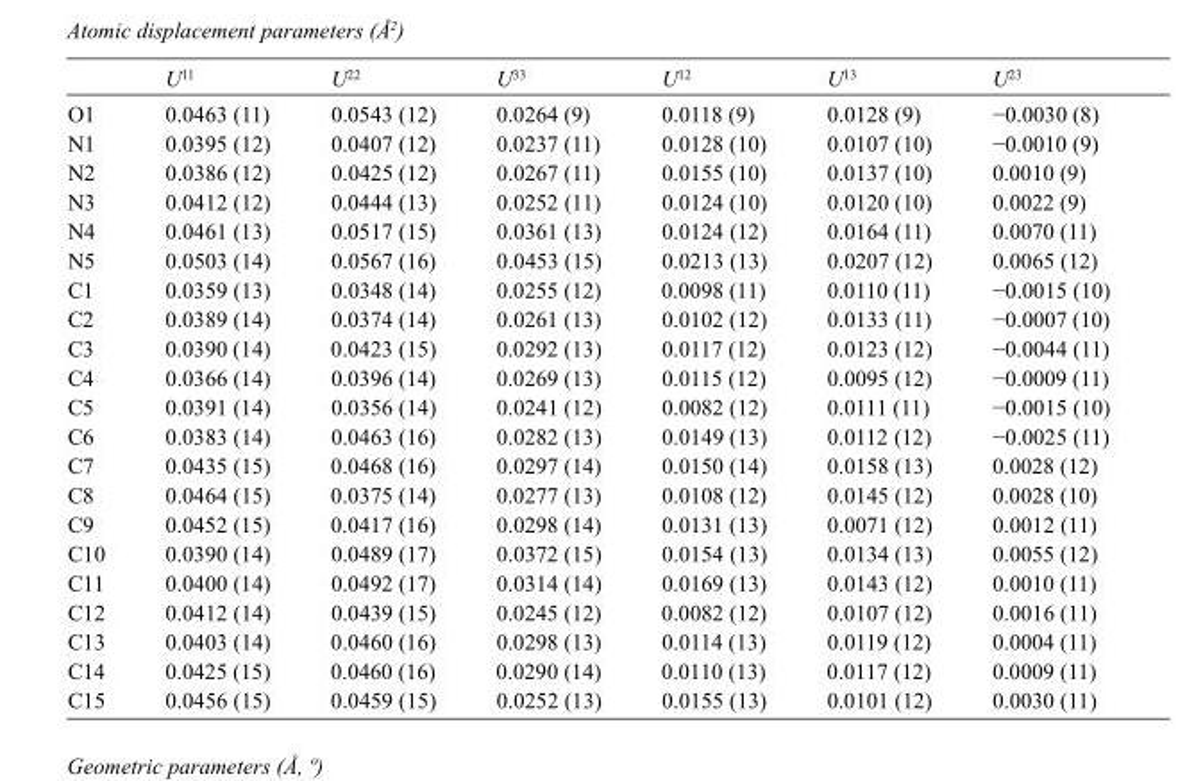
<table><thead><tr><td></td><td>U<sup>11</sup></td><td>U<sup>22</sup></td><td>U<sup>33</sup></td><td>U<sup>12</sup></td><td>U<sup>13</sup></td><td>U<sup>23</sup></td></tr></thead><tbody><tr><td>O1</td><td>0.0463 (11)</td><td>0.0543 (12)</td><td>0.0264 (9)</td><td>0.0118 (9)</td><td>0.0128 (9)</td><td>−0.0030 (8)</td></tr><tr><td>N1</td><td>0.0395 (12)</td><td>0.0407 (12)</td><td>0.0237 (11)</td><td>0.0128 (10)</td><td>0.0107 (10)</td><td>−0.0010 (9)</td></tr><tr><td>N2</td><td>0.0386 (12)</td><td>0.0425 (12)</td><td>0.0267 (11)</td><td>0.0155 (10)</td><td>0.0137 (10)</td><td>0.0010 (9)</td></tr><tr><td>N3</td><td>0.0412 (12)</td><td>0.0444 (13)</td><td>0.0252 (11)</td><td>0.0124 (10)</td><td>0.0120 (10)</td><td>0.0022 (9)</td></tr><tr><td>N4</td><td>0.0461 (13)</td><td>0.0517 (15)</td><td>0.0361 (13)</td><td>0.0124 (12)</td><td>0.0164 (11)</td><td>0.0070 (11)</td></tr><tr><td>N5</td><td>0.0503 (14)</td><td>0.0567 (16)</td><td>0.0453 (15)</td><td>0.0213 (13)</td><td>0.0207 (12)</td><td>0.0065 (12)</td></tr><tr><td>C1</td><td>0.0359 (13)</td><td>0.0348 (14)</td><td>0.0255 (12)</td><td>0.0098 (11)</td><td>0.0110 (11)</td><td>−0.0015 (10)</td></tr><tr><td>C2</td><td>0.0389 (14)</td><td>0.0374 (14)</td><td>0.0261 (13)</td><td>0.0102 (12)</td><td>0.0133 (11)</td><td>−0.0007 (10)</td></tr><tr><td>C3</td><td>0.0390 (14)</td><td>0.0423 (15)</td><td>0.0292 (13)</td><td>0.0117 (12)</td><td>0.0123 (12)</td><td>−0.0044 (11)</td></tr><tr><td>C4</td><td>0.0366 (14)</td><td>0.0396 (14)</td><td>0.0269 (13)</td><td>0.0115 (12)</td><td>0.0095 (12)</td><td>−0.0009 (11)</td></tr><tr><td>C5</td><td>0.0391 (14)</td><td>0.0356 (14)</td><td>0.0241 (12)</td><td>0.0082 (12)</td><td>0.0111 (11)</td><td>−0.0015 (10)</td></tr><tr><td>C6</td><td>0.0383 (14)</td><td>0.0463 (16)</td><td>0.0282 (13)</td><td>0.0149 (13)</td><td>0.0112 (12)</td><td>−0.0025 (11)</td></tr><tr><td>C7</td><td>0.0435 (15)</td><td>0.0468 (16)</td><td>0.0297 (14)</td><td>0.0150 (14)</td><td>0.0158 (13)</td><td>0.0028 (12)</td></tr><tr><td>C8</td><td>0.0464 (15)</td><td>0.0375 (14)</td><td>0.0277 (13)</td><td>0.0108 (12)</td><td>0.0145 (12)</td><td>0.0028 (10)</td></tr><tr><td>C9</td><td>0.0452 (15)</td><td>0.0417 (16)</td><td>0.0298 (14)</td><td>0.0131 (13)</td><td>0.0071 (12)</td><td>0.0012 (11)</td></tr><tr><td>C10</td><td>0.0390 (14)</td><td>0.0489 (17)</td><td>0.0372 (15)</td><td>0.0154 (13)</td><td>0.0134 (13)</td><td>0.0055 (12)</td></tr><tr><td>C11</td><td>0.0400 (14)</td><td>0.0492 (17)</td><td>0.0314 (14)</td><td>0.0169 (13)</td><td>0.0143 (12)</td><td>0.0010 (11)</td></tr><tr><td>C12</td><td>0.0412 (14)</td><td>0.0439 (15)</td><td>0.0245 (12)</td><td>0.0082 (12)</td><td>0.0107 (12)</td><td>0.0016 (11)</td></tr><tr><td>C13</td><td>0.0403 (14)</td><td>0.0460 (16)</td><td>0.0298 (13)</td><td>0.0114 (13)</td><td>0.0119 (12)</td><td>0.0004 (11)</td></tr><tr><td>C14</td><td>0.0425 (15)</td><td>0.0460 (16)</td><td>0.0290 (14)</td><td>0.0110 (13)</td><td>0.0117 (12)</td><td>0.0009 (11)</td></tr><tr><td>C15</td><td>0.0456 (15)</td><td>0.0459 (15)</td><td>0.0252 (13)</td><td>0.0155 (13)</td><td>0.0101 (12)</td><td>0.0030 (11)</td></tr></tbody></table>